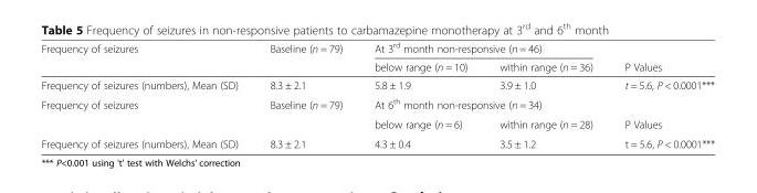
<table><thead><tr><td rowspan="2">Frequency of seizures</td><td rowspan="2">Baseline (n = 79)</td><td colspan="2">At 3<sup>rd</sup> month non-responsive (n = 46)</td><td rowspan="2">P Values</td></tr><tr><td>below range (n = 10)</td><td>within range (n = 36)</td></tr></thead><tbody><tr><td>Frequency of seizures (numbers), Mean (SD)</td><td>8.3 ± 2.1</td><td>5.8 ± 1.9</td><td>3.9 ± 1.0</td><td>t = 5.6, P &lt; 0.0001***</td></tr><tr><td rowspan="2">Frequency of seizures</td><td rowspan="2">Baseline (n = 79)</td><td colspan="2">At 6<sup>th</sup> month non-responsive (n = 34)</td><td></td></tr><tr><td>below range (n = 6)</td><td>within range (n = 28)</td><td>P Values</td></tr><tr><td>Frequency of seizures (numbers), Mean (SD)</td><td>8.3 ± 2.1</td><td>4.3 ± 0.4</td><td>3.5 ± 1.2</td><td>t = 5.6, P &lt; 0.0001***</td></tr></tbody></table>